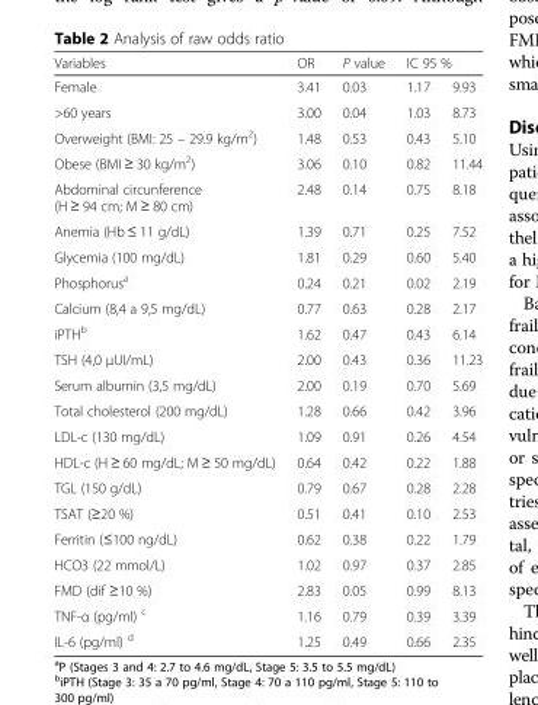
<table><thead><tr><td rowspan="2">Variables Female</td><td rowspan="2">OR 3.41</td><td rowspan="2">P value 0.03</td><td colspan="2">IC 95 %</td></tr><tr><td>1.17</td><td>9.93</td></tr></thead><tbody><tr><td>&gt;60 years</td><td>3.00</td><td>0.04</td><td>1.03</td><td>8.73</td></tr><tr><td>Overweight (BMI: 25 – 29.9 kg/m<sup>2</sup>)</td><td>1.48</td><td>0.53</td><td>0.43</td><td>5.10</td></tr><tr><td>Obese (BMI ≥ 30 kg/m<sup>2</sup>)</td><td>3.06</td><td>0.10</td><td>0.82</td><td>11.44</td></tr><tr><td>Abdominal circunference (H ≥ 94 cm; M ≥ 80 cm)</td><td>2.48</td><td>0.14</td><td>0.75</td><td>8.18</td></tr><tr><td>Anemia (Hb ≤ 11 g/dL)</td><td>1.39</td><td>0.71</td><td>0.25</td><td>7.52</td></tr><tr><td>Glycemia (100 mg/dL)</td><td>1.81</td><td>0.29</td><td>0.60</td><td>5.40</td></tr><tr><td>Phosphorus<sup>a</sup></td><td>0.24</td><td>0.21</td><td>0.02</td><td>2.19</td></tr><tr><td>Calcium (8,4 a 9,5 mg/dL)</td><td>0.77</td><td>0.63</td><td>0.28</td><td>2.17</td></tr><tr><td>iPTH<sup>b</sup></td><td>1.62</td><td>0.47</td><td>0.43</td><td>6.14</td></tr><tr><td>TSH (4,0 μUI/mL)</td><td>2.00</td><td>0.43</td><td>0.36</td><td>11.23</td></tr><tr><td>Serum albumin (3,5 mg/dL)</td><td>2.00</td><td>0.19</td><td>0.70</td><td>5.69</td></tr><tr><td>Total cholesterol (200 mg/dL)</td><td>1.28</td><td>0.66</td><td>0.42</td><td>3.96</td></tr><tr><td>LDL-c (130 mg/dL)</td><td>1.09</td><td>0.91</td><td>0.26</td><td>4.54</td></tr><tr><td>HDL-c (H ≥ 60 mg/dL; M ≥ 50 mg/dL)</td><td>0.64</td><td>0.42</td><td>0.22</td><td>1.88</td></tr><tr><td>TGL (150 g/dL)</td><td>0.79</td><td>0.67</td><td>0.28</td><td>2.28</td></tr><tr><td>TSAT (≥20 %)</td><td>0.51</td><td>0.41</td><td>0.10</td><td>2.53</td></tr><tr><td>Ferritin (≤100 ng/dL)</td><td>0.62</td><td>0.38</td><td>0.22</td><td>1.79</td></tr><tr><td>HCO3 (22 mmol/L)</td><td>1.02</td><td>0.97</td><td>0.37</td><td>2.85</td></tr><tr><td>FMD (dif ≥10 %)</td><td>2.83</td><td>0.05</td><td>0.99</td><td>8.13</td></tr><tr><td>TNF-α (pg/ml) <sup>c</sup></td><td>1.16</td><td>0.79</td><td>0.39</td><td>3.39</td></tr><tr><td>IL-6 (pg/ml) <sup>d</sup></td><td>1.25</td><td>0.49</td><td>0.66</td><td>2.35</td></tr></tbody></table>